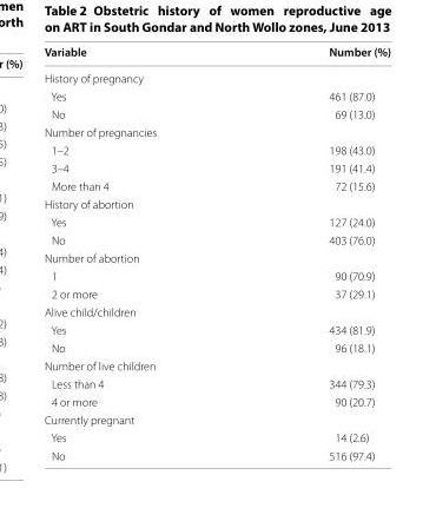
<table><thead><tr><td>Variable</td><td>Number (%)</td></tr></thead><tbody><tr><td colspan="2">History of pregnancy</td></tr><tr><td>Yes</td><td>461 (87.0)</td></tr><tr><td>No</td><td>69 (13.0)</td></tr><tr><td colspan="2">Number of pregnancies</td></tr><tr><td>1–2</td><td>198 (43.0)</td></tr><tr><td>3–4</td><td>191 (41.4)</td></tr><tr><td>More than 4</td><td>72 (15.6)</td></tr><tr><td colspan="2">History of abortion</td></tr><tr><td>Yes</td><td>127 (24.0)</td></tr><tr><td>No</td><td>403 (76.0)</td></tr><tr><td colspan="2">Number of abortion</td></tr><tr><td>1</td><td>90 (70.9)</td></tr><tr><td>2 or more</td><td>37 (29.1)</td></tr><tr><td colspan="2">Alive child/children</td></tr><tr><td>Yes</td><td>434 (81.9)</td></tr><tr><td>No</td><td>96 (18.1)</td></tr><tr><td colspan="2">Number of live children</td></tr><tr><td>Less than 4</td><td>344 (79.3)</td></tr><tr><td>4 or more</td><td>90 (20.7)</td></tr><tr><td colspan="2">Currently pregnant</td></tr><tr><td>Yes</td><td>14 (2.6)</td></tr><tr><td>No</td><td>516 (97.4)</td></tr></tbody></table>